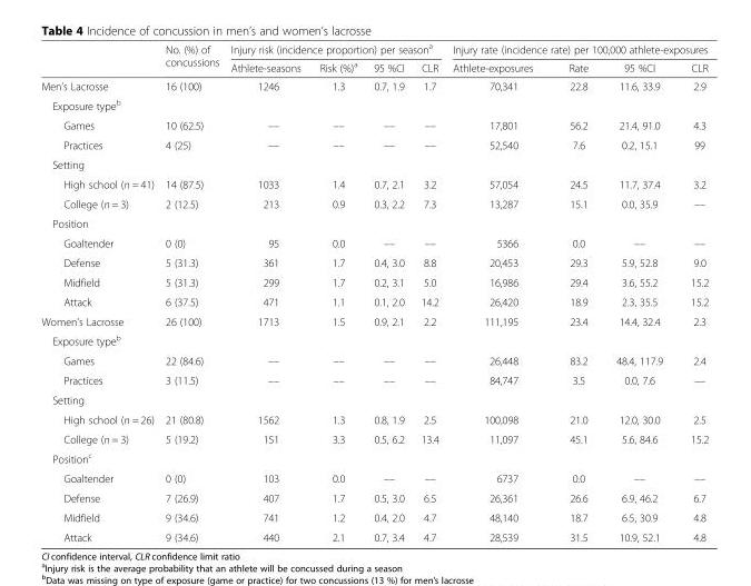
<table><thead><tr><td rowspan="2"></td><td rowspan="2">No. (%) of concussions</td><td colspan="4">Injury risk (incidence proportion) per season<sup>a</sup></td><td colspan="4">Injury rate (incidence rate) per 100,000 athlete-exposures</td></tr><tr><td>Athlete-seasons</td><td>Risk (%)<sup>a</sup></td><td>95 %CI</td><td>CLR</td><td>Athlete-exposures</td><td>Rate</td><td>95 %CI</td><td>CLR</td></tr></thead><tbody><tr><td>Men’s Lacrosse</td><td>16 (100)</td><td>1246</td><td>1.3</td><td>0.7, 1.9</td><td>1.7</td><td>70,341</td><td>22.8</td><td>11.6, 33.9</td><td>2.9</td></tr><tr><td colspan="10">Exposure type<sup>b</sup></td></tr><tr><td>Games</td><td>10 (62.5)</td><td>––</td><td>––</td><td>––</td><td>––</td><td>17,801</td><td>56.2</td><td>21.4, 91.0</td><td>4.3</td></tr><tr><td>Practices</td><td>4 (25)</td><td>––</td><td>––</td><td>––</td><td>––</td><td>52,540</td><td>7.6</td><td>0.2, 15.1</td><td>99</td></tr><tr><td colspan="10">Setting</td></tr><tr><td>High school (n = 41)</td><td>14 (87.5)</td><td>1033</td><td>1.4</td><td>0.7, 2.1</td><td>3.2</td><td>57,054</td><td>24.5</td><td>11.7, 37.4</td><td>3.2</td></tr><tr><td>College (n = 3)</td><td>2 (12.5)</td><td>213</td><td>0.9</td><td>0.3, 2.2</td><td>7.3</td><td>13,287</td><td>15.1</td><td>0.0, 35.9</td><td>––</td></tr><tr><td colspan="10">Position</td></tr><tr><td>Goaltender</td><td>0 (0)</td><td>95</td><td>0.0</td><td>––</td><td>––</td><td>5366</td><td>0.0</td><td>––</td><td>––</td></tr><tr><td>Defense</td><td>5 (31.3)</td><td>361</td><td>1.7</td><td>0.4, 3.0</td><td>8.8</td><td>20,453</td><td>29.3</td><td>5.9, 52.8</td><td>9.0</td></tr><tr><td>Midfield</td><td>5 (31.3)</td><td>299</td><td>1.7</td><td>0.2, 3.1</td><td>5.0</td><td>16,986</td><td>29.4</td><td>3.6, 55.2</td><td>15.2</td></tr><tr><td>Attack</td><td>6 (37.5)</td><td>471</td><td>1.1</td><td>0.1, 2.0</td><td>14.2</td><td>26,420</td><td>18.9</td><td>2.3, 35.5</td><td>15.2</td></tr><tr><td>Women’s Lacrosse</td><td>26 (100)</td><td>1713</td><td>1.5</td><td>0.9, 2.1</td><td>2.2</td><td>111,195</td><td>23.4</td><td>14.4, 32.4</td><td>2.3</td></tr><tr><td colspan="10">Exposure type<sup>b</sup></td></tr><tr><td>Games</td><td>22 (84.6)</td><td>––</td><td>––</td><td>––</td><td>––</td><td>26,448</td><td>83.2</td><td>48.4, 117.9</td><td>2.4</td></tr><tr><td>Practices</td><td>3 (11.5)</td><td>––</td><td>––</td><td>––</td><td>––</td><td>84,747</td><td>3.5</td><td>0.0, 7.6</td><td>—</td></tr><tr><td colspan="10">Setting</td></tr><tr><td>High school (n = 26)</td><td>21 (80.8)</td><td>1562</td><td>1.3</td><td>0.8, 1.9</td><td>2.5</td><td>100,098</td><td>21.0</td><td>12.0, 30.0</td><td>2.5</td></tr><tr><td>College (n = 3)</td><td>5 (19.2)</td><td>151</td><td>3.3</td><td>0.5, 6.2</td><td>13.4</td><td>11,097</td><td>45.1</td><td>5.6, 84.6</td><td>15.2</td></tr><tr><td colspan="10">Position<sup>c</sup></td></tr><tr><td>Goaltender</td><td>0 (0)</td><td>103</td><td>0.0</td><td>––</td><td>––</td><td>6737</td><td>0.0</td><td>––</td><td>––</td></tr><tr><td>Defense</td><td>7 (26.9)</td><td>407</td><td>1.7</td><td>0.5, 3.0</td><td>6.5</td><td>26,361</td><td>26.6</td><td>6.9, 46.2</td><td>6.7</td></tr><tr><td>Midfield</td><td>9 (34.6)</td><td>741</td><td>1.2</td><td>0.4, 2.0</td><td>4.7</td><td>48,140</td><td>18.7</td><td>6.5, 30.9</td><td>4.8</td></tr><tr><td>Attack</td><td>9 (34.6)</td><td>440</td><td>2.1</td><td>0.7, 3.4</td><td>4.7</td><td>28,539</td><td>31.5</td><td>10.9, 52.1</td><td>4.8</td></tr></tbody></table>